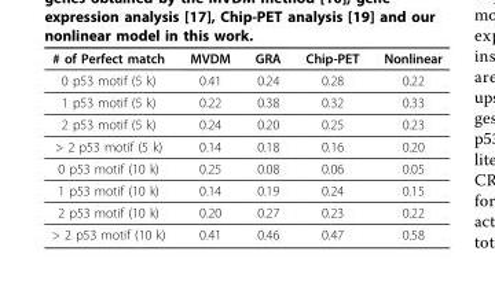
<table><thead><tr><td># of Perfect match</td><td>MVDM</td><td>GRA</td><td>Chip-PET</td><td>Nonlinear</td></tr></thead><tbody><tr><td>0 p53 motif (5 k)</td><td>0.41</td><td>0.24</td><td>0.28</td><td>0.22</td></tr><tr><td>1 p53 motif (5 k)</td><td>0.22</td><td>0.38</td><td>0.32</td><td>0.33</td></tr><tr><td>2 p53 motif (5 k)</td><td>0.24</td><td>0.20</td><td>0.25</td><td>0.23</td></tr><tr><td>&gt; 2 p53 motif (5 k)</td><td>0.14</td><td>0.18</td><td>0.16</td><td>0.20</td></tr><tr><td>0 p53 motif (10 k)</td><td>0.25</td><td>0.08</td><td>0.06</td><td>0.05</td></tr><tr><td>1 p53 motif (10 k)</td><td>0.14</td><td>0.19</td><td>0.24</td><td>0.15</td></tr><tr><td>2 p53 motif (10 k)</td><td>0.20</td><td>0.27</td><td>0.23</td><td>0.22</td></tr><tr><td>&gt; 2 p53 motif (10 k)</td><td>0.41</td><td>0.46</td><td>0.47</td><td>0.58</td></tr></tbody></table>